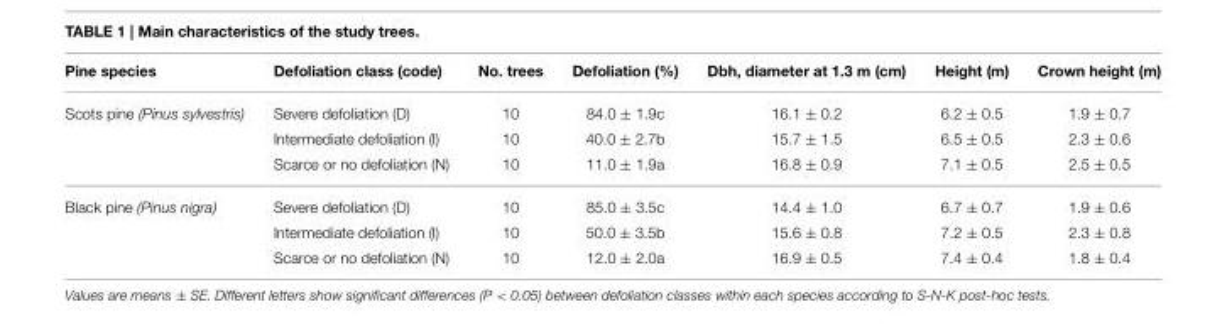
<table><thead><tr><td>Pine species</td><td>Defoliation class (code)</td><td>No. trees</td><td>Defoliation (%)</td><td>Dbh, diameter at 1.3 m (cm)</td><td>Height (m)</td><td>Crown height (m)</td></tr></thead><tbody><tr><td rowspan="3">Scots pine (Pinus sylvestris)</td><td>Severe defoliation (D)</td><td>10</td><td>84.0 ± 1.9c</td><td>16.1 ± 0.2</td><td>6.2 ± 0.5</td><td>1.9 ± 0.7</td></tr><tr><td>Intermediate defoliation (I)</td><td>10</td><td>40.0 ± 2.7b</td><td>15.7 ± 1.5</td><td>6.5 ± 0.5</td><td>2.3 ± 0.6</td></tr><tr><td>Scarce or no defoliation (N)</td><td>10</td><td>11.0 ± 1.9a</td><td>16.8 ± 0.9</td><td>7.1 ± 0.5</td><td>2.5 ± 0.5</td></tr><tr><td rowspan="3">Black pine (Pinus nigra)</td><td>Severe defoliation (D)</td><td>10</td><td>85.0 ± 3.5c</td><td>14.4 ± 1.0</td><td>6.7 ± 0.7</td><td>1.9 ± 0.6</td></tr><tr><td>Intermediate defoliation (I)</td><td>10</td><td>50.0 ± 3.5b</td><td>15.6 ± 0.8</td><td>7.2 ± 0.5</td><td>2.3 ± 0.8</td></tr><tr><td>Scarce or no defoliation (N)</td><td>10</td><td>12.0 ± 2.0a</td><td>16.9 ± 0.5</td><td>7.4 ± 0.4</td><td>1.8 ± 0.4</td></tr></tbody></table>